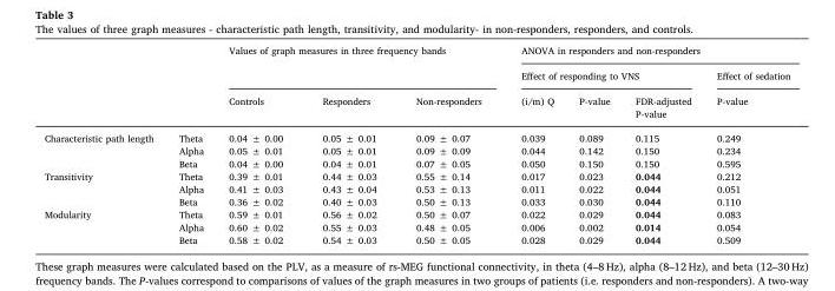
<table><thead><tr><td rowspan="3"></td><td rowspan="3"></td><td rowspan="2" colspan="3">Values of graph measures in three frequency bands</td><td colspan="4">ANOVA in responders and non-responders</td></tr><tr><td colspan="3">Effect of responding to VNS</td><td rowspan="2">Effect of sedation P-value</td></tr><tr><td>Controls</td><td>Responders</td><td>Non-responders</td><td>(i/m) Q</td><td>P-value</td><td>FDR-adjusted P-value</td></tr></thead><tbody><tr><td rowspan="3">Characteristic path length</td><td>Theta</td><td>0.04 ± 0.00</td><td>0.05 ± 0.01</td><td>0.09 ± 0.07</td><td>0.039</td><td>0.089</td><td>0.115</td><td>0.249</td></tr><tr><td>Alpha</td><td>0.05 ± 0.01</td><td>0.05 ± 0.01</td><td>0.09 ± 0.09</td><td>0.044</td><td>0.142</td><td>0.150</td><td>0.234</td></tr><tr><td>Beta</td><td>0.04 ± 0.00</td><td>0.04 ± 0.01</td><td>0.07 ± 0.05</td><td>0.050</td><td>0.150</td><td>0.150</td><td>0.595</td></tr><tr><td rowspan="3">Transitivity</td><td>Theta</td><td>0.39 ± 0.01</td><td>0.44 ± 0.03</td><td>0.55 ± 0.14</td><td>0.017</td><td>0.023</td><td>0.044</td><td>0.212</td></tr><tr><td>Alpha</td><td>0.41 ± 0.03</td><td>0.43 ± 0.04</td><td>0.53 ± 0.13</td><td>0.011</td><td>0.022</td><td>0.044</td><td>0.051</td></tr><tr><td>Beta</td><td>0.36 ± 0.02</td><td>0.40 ± 0.03</td><td>0.50 ± 0.13</td><td>0.033</td><td>0.030</td><td>0.044</td><td>0.110</td></tr><tr><td rowspan="3">Modularity</td><td>Theta</td><td>0.59 ± 0.01</td><td>0.56 ± 0.02</td><td>0.50 ± 0.07</td><td>0.022</td><td>0.029</td><td>0.044</td><td>0.083</td></tr><tr><td>Alpha</td><td>0.60 ± 0.02</td><td>0.55 ± 0.03</td><td>0.48 ± 0.05</td><td>0.006</td><td>0.002</td><td>0.014</td><td>0.054</td></tr><tr><td>Beta</td><td>0.58 ± 0.02</td><td>0.54 ± 0.03</td><td>0.50 ± 0.05</td><td>0.028</td><td>0.029</td><td>0.044</td><td>0.509</td></tr></tbody></table>